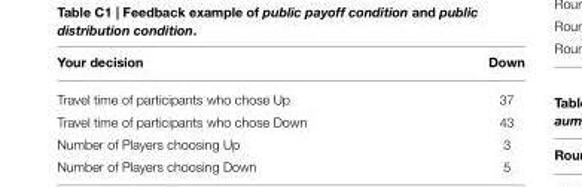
<table><thead><tr><td>Your decision</td><td>Down</td></tr></thead><tbody><tr><td>Travel time of participants who chose Up</td><td>37</td></tr><tr><td>Travel time of participants who chose Down</td><td>43</td></tr></tbody></table>